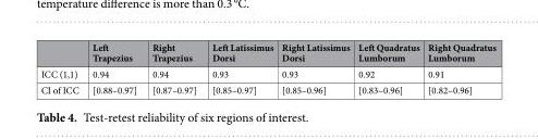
<table><thead><tr><td></td><td>Left Trapezius</td><td>Right Trapezius</td><td>Left Latissimus Dorsi</td><td>Right Latissimus Dorsi</td><td>Left Quadratus Lumborum</td><td>Right Quadratus Lumborum</td></tr></thead><tbody><tr><td>ICC (1,1)</td><td>0.94</td><td>0.94</td><td>0.93</td><td>0.93</td><td>0.92</td><td>0.91</td></tr><tr><td>CI of ICC</td><td>[0.88–0.97]</td><td>[0.87–0.97]</td><td>[0.85–0.97]</td><td>[0.85–0.96]</td><td>[0.83–0.96]</td><td>[0.82–0.96]</td></tr></tbody></table>